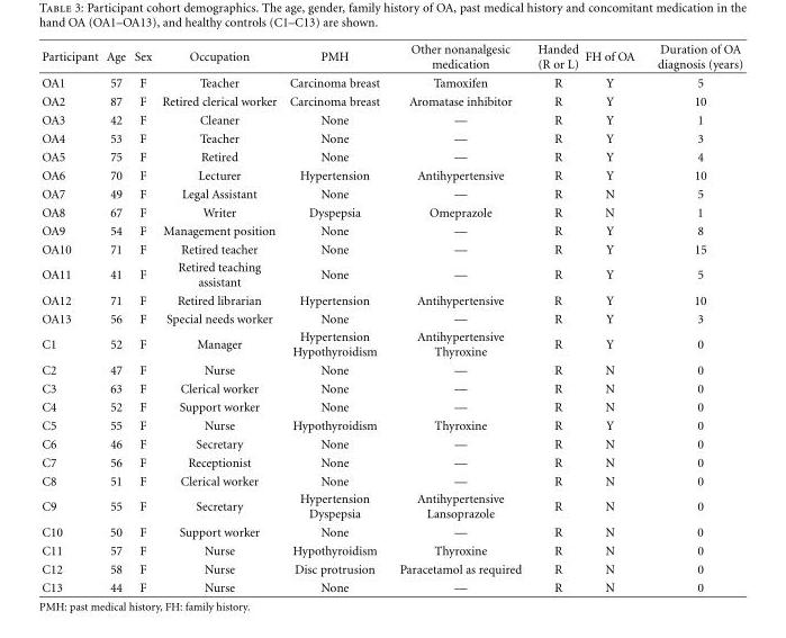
<table><thead><tr><td>Participant</td><td>Age</td><td>Sex</td><td>Occupation</td><td>PMH</td><td>Other nonanalgesic medication</td><td>Handed (R or L)</td><td>FH of OA</td><td>Duration of OA diagnosis (years)</td></tr></thead><tbody><tr><td>OA1</td><td>57</td><td>F</td><td>Teacher</td><td>Carcinoma breast</td><td>Tamoxifen</td><td>R</td><td>Y</td><td>5</td></tr><tr><td>OA2</td><td>87</td><td>F</td><td>Retired clerical worker</td><td>Carcinoma breast</td><td>Aromatase inhibitor</td><td>R</td><td>Y</td><td>10</td></tr><tr><td>OA3</td><td>42</td><td>F</td><td>Cleaner</td><td>None</td><td>—</td><td>R</td><td>Y</td><td>1</td></tr><tr><td>OA4</td><td>53</td><td>F</td><td>Teacher</td><td>None</td><td>—</td><td>R</td><td>Y</td><td>3</td></tr><tr><td>OA5</td><td>75</td><td>F</td><td>Retired</td><td>None</td><td>—</td><td>R</td><td>Y</td><td>4</td></tr><tr><td>OA6</td><td>70</td><td>F</td><td>Lecturer</td><td>Hypertension</td><td>Antihypertensive</td><td>R</td><td>Y</td><td>10</td></tr><tr><td>OA7</td><td>49</td><td>F</td><td>Legal Assistant</td><td>None</td><td>—</td><td>R</td><td>N</td><td>5</td></tr><tr><td>OA8</td><td>67</td><td>F</td><td>Writer</td><td>Dyspepsia</td><td>Omeprazole</td><td>R</td><td>N</td><td>1</td></tr><tr><td>OA9</td><td>54</td><td>F</td><td>Management position</td><td>None</td><td>—</td><td>R</td><td>Y</td><td>8</td></tr><tr><td>OA10</td><td>71</td><td>F</td><td>Retired teacher</td><td>None</td><td>—</td><td>R</td><td>Y</td><td>15</td></tr><tr><td>OA11</td><td>41</td><td>F</td><td>Retired teaching assistant</td><td>None</td><td>—</td><td>R</td><td>Y</td><td>5</td></tr><tr><td>OA12</td><td>71</td><td>F</td><td>Retired librarian</td><td>Hypertension</td><td>Antihypertensive</td><td>R</td><td>Y</td><td>10</td></tr><tr><td>OA13</td><td>56</td><td>F</td><td>Special needs worker</td><td>None</td><td>—</td><td>R</td><td>Y</td><td>3</td></tr><tr><td>C1</td><td>52</td><td>F</td><td>Manager</td><td>Hypertension Hypothyroidism</td><td>Antihypertensive Thyroxine</td><td>R</td><td>Y</td><td>0</td></tr><tr><td>C2</td><td>47</td><td>F</td><td>Nurse</td><td>None</td><td>—</td><td>R</td><td>N</td><td>0</td></tr><tr><td>C3</td><td>63</td><td>F</td><td>Clerical worker</td><td>None</td><td>—</td><td>R</td><td>N</td><td>0</td></tr><tr><td>C4</td><td>52</td><td>F</td><td>Support worker</td><td>None</td><td>—</td><td>R</td><td>N</td><td>0</td></tr><tr><td>C5</td><td>55</td><td>F</td><td>Nurse</td><td>Hypothyroidism</td><td>Thyroxine</td><td>R</td><td>Y</td><td>0</td></tr><tr><td>C6</td><td>46</td><td>F</td><td>Secretary</td><td>None</td><td>—</td><td>R</td><td>N</td><td>0</td></tr><tr><td>C7</td><td>56</td><td>F</td><td>Receptionist</td><td>None</td><td>—</td><td>R</td><td>N</td><td>0</td></tr><tr><td>C8</td><td>51</td><td>F</td><td>Clerical worker</td><td>None</td><td>—</td><td>R</td><td>N</td><td>0</td></tr><tr><td>C9</td><td>55</td><td>F</td><td>Secretary</td><td>Hypertension Dyspepsia</td><td>Antihypertensive Lansoprazole</td><td>R</td><td>N</td><td>0</td></tr><tr><td>C10</td><td>50</td><td>F</td><td>Support worker</td><td>None</td><td>—</td><td>R</td><td>N</td><td>0</td></tr><tr><td>C11</td><td>57</td><td>F</td><td>Nurse</td><td>Hypothyroidism</td><td>Thyroxine</td><td>R</td><td>N</td><td>0</td></tr><tr><td>C12</td><td>58</td><td>F</td><td>Nurse</td><td>Disc protrusion</td><td>Paracetamol as required</td><td>R</td><td>N</td><td>0</td></tr><tr><td>C13</td><td>44</td><td>F</td><td>Nurse</td><td>None</td><td>—</td><td>R</td><td>N</td><td>0</td></tr></tbody></table>